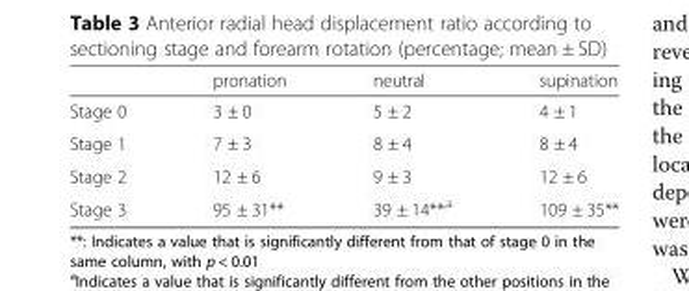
<table><thead><tr><td></td><td>pronation</td><td>neutral</td><td>supination</td></tr></thead><tbody><tr><td>Stage 0</td><td>3 ± 0</td><td>5 ± 2</td><td>4 ± 1</td></tr><tr><td>Stage 1</td><td>7 ± 3</td><td>8 ± 4</td><td>8 ± 4</td></tr><tr><td>Stage 2</td><td>12 ± 6</td><td>9 ± 3</td><td>12 ± 6</td></tr><tr><td>Stage 3</td><td>95 ± 31**</td><td>39 ± 14**<sup>,a</sup></td><td>109 ± 35**</td></tr></tbody></table>